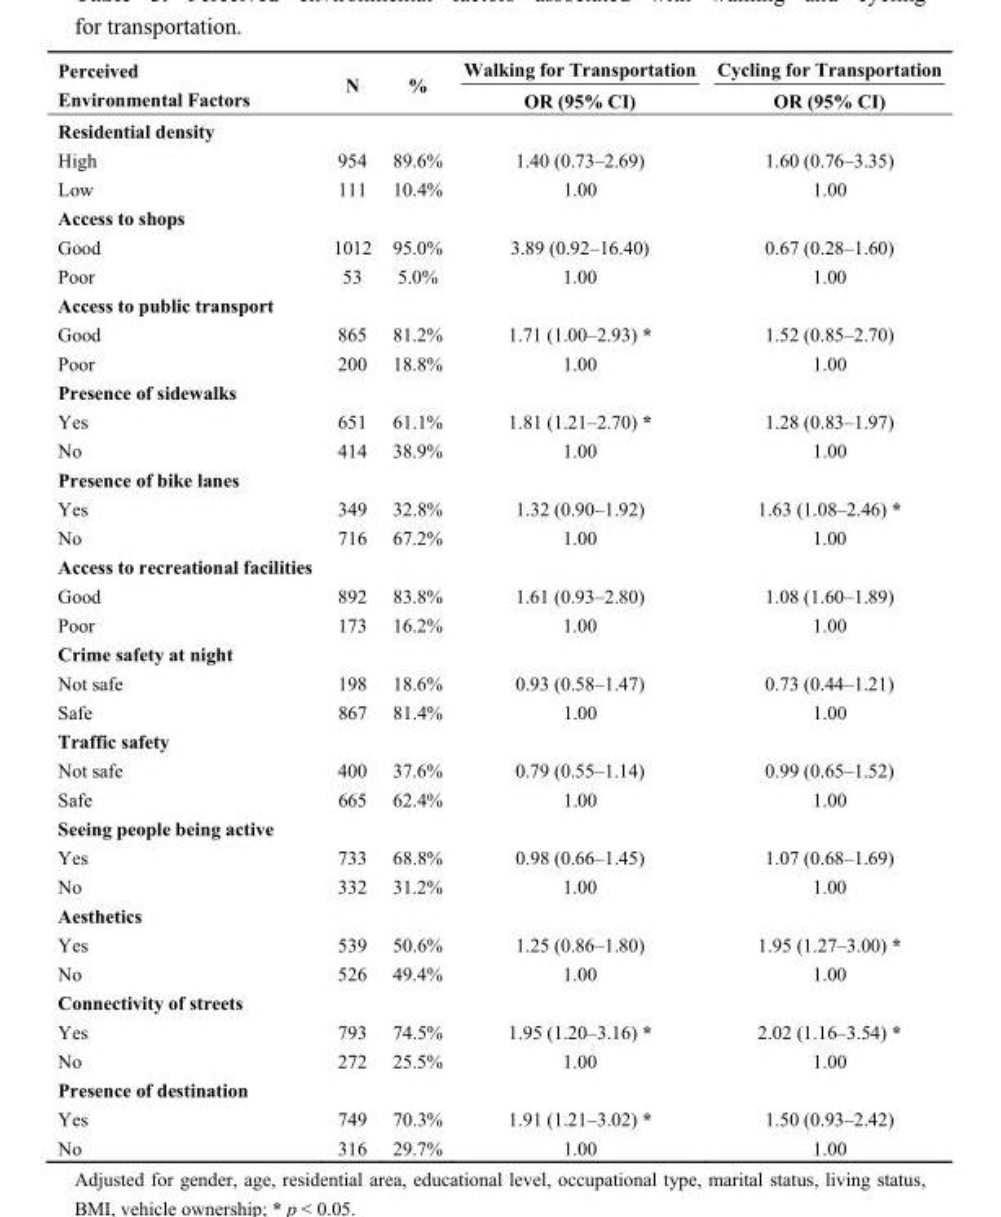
<table><thead><tr><td rowspan="2">Perceived Environmental Factors</td><td rowspan="2">N</td><td rowspan="2">%</td><td rowspan="2">Walking for Transportation OR (95% CI)</td><td rowspan="2">Cycling for Transportation OR (95% CI)</td></tr><tr></tr></thead><tbody><tr><td colspan="5">Residential density</td></tr><tr><td>High</td><td>954</td><td>89.6%</td><td>1.40 (0.73–2.69)</td><td>1.60 (0.76–3.35)</td></tr><tr><td>Low</td><td>111</td><td>10.4%</td><td>1.00</td><td>1.00</td></tr><tr><td colspan="5">Access to shops</td></tr><tr><td>Good</td><td>1012</td><td>95.0%</td><td>3.89 (0.92–16.40)</td><td>0.67 (0.28–1.60)</td></tr><tr><td>Poor</td><td>53</td><td>5.0%</td><td>1.00</td><td>1.00</td></tr><tr><td colspan="5">Access to public transport</td></tr><tr><td>Good</td><td>865</td><td>81.2%</td><td>1.71 (1.00–2.93) *</td><td>1.52 (0.85–2.70)</td></tr><tr><td>Poor</td><td>200</td><td>18.8%</td><td>1.00</td><td>1.00</td></tr><tr><td colspan="5">Presence of sidewalks</td></tr><tr><td>Yes</td><td>651</td><td>61.1%</td><td>1.81 (1.21–2.70) *</td><td>1.28 (0.83–1.97)</td></tr><tr><td>No</td><td>414</td><td>38.9%</td><td>1.00</td><td>1.00</td></tr><tr><td colspan="5">Presence of bike lanes</td></tr><tr><td>Yes</td><td>349</td><td>32.8%</td><td>1.32 (0.90–1.92)</td><td>1.63 (1.08–2.46) *</td></tr><tr><td>No</td><td>716</td><td>67.2%</td><td>1.00</td><td>1.00</td></tr><tr><td colspan="5">Access to recreational facilities</td></tr><tr><td>Good</td><td>892</td><td>83.8%</td><td>1.61 (0.93–2.80)</td><td>1.08 (1.60–1.89)</td></tr><tr><td>Poor</td><td>173</td><td>16.2%</td><td>1.00</td><td>1.00</td></tr><tr><td colspan="5">Crime safety at night</td></tr><tr><td>Not safe</td><td>198</td><td>18.6%</td><td>0.93 (0.58–1.47)</td><td>0.73 (0.44–1.21)</td></tr><tr><td>Safe</td><td>867</td><td>81.4%</td><td>1.00</td><td>1.00</td></tr><tr><td colspan="5">Traffic safety</td></tr><tr><td>Not safe</td><td>400</td><td>37.6%</td><td>0.79 (0.55–1.14)</td><td>0.99 (0.65–1.52)</td></tr><tr><td>Safe</td><td>665</td><td>62.4%</td><td>1.00</td><td>1.00</td></tr><tr><td colspan="5">Seeing people being active</td></tr><tr><td>Yes</td><td>733</td><td>68.8%</td><td>0.98 (0.66–1.45)</td><td>1.07 (0.68–1.69)</td></tr><tr><td>No</td><td>332</td><td>31.2%</td><td>1.00</td><td>1.00</td></tr><tr><td colspan="5">Aesthetics</td></tr><tr><td>Yes</td><td>539</td><td>50.6%</td><td>1.25 (0.86–1.80)</td><td>1.95 (1.27–3.00) *</td></tr><tr><td>No</td><td>526</td><td>49.4%</td><td>1.00</td><td>1.00</td></tr><tr><td colspan="5">Connectivity of streets</td></tr><tr><td>Yes</td><td>793</td><td>74.5%</td><td>1.95 (1.20–3.16) *</td><td>2.02 (1.16–3.54) *</td></tr><tr><td>No</td><td>272</td><td>25.5%</td><td>1.00</td><td>1.00</td></tr><tr><td colspan="5">Presence of destination</td></tr><tr><td>Yes</td><td>749</td><td>70.3%</td><td>1.91 (1.21–3.02) *</td><td>1.50 (0.93–2.42)</td></tr><tr><td>No</td><td>316</td><td>29.7%</td><td>1.00</td><td>1.00</td></tr></tbody></table>